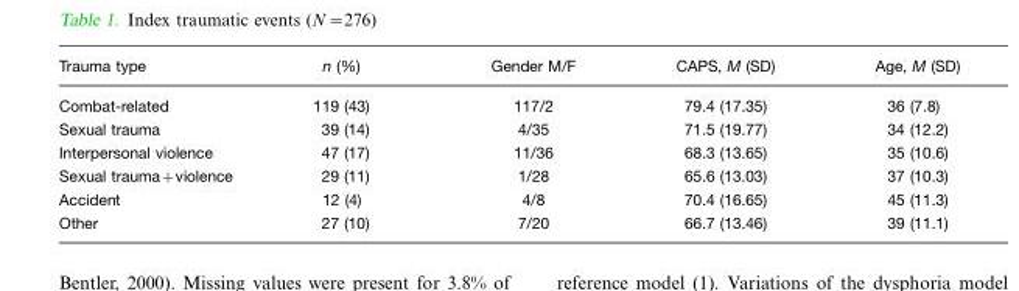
<table><thead><tr><td>Trauma type</td><td>n (%)</td><td>Gender M/F</td><td>CAPS, M (SD)</td><td>Age, M (SD)</td></tr></thead><tbody><tr><td>Combat-related</td><td>119 (43)</td><td>117/2</td><td>79.4 (17.35)</td><td>36 (7.8)</td></tr><tr><td>Sexual trauma</td><td>39 (14)</td><td>4/35</td><td>71.5 (19.77)</td><td>34 (12.2)</td></tr><tr><td>Interpersonal violence</td><td>47 (17)</td><td>11/36</td><td>68.3 (13.65)</td><td>35 (10.6)</td></tr><tr><td>Sexual trauma+violence</td><td>29 (11)</td><td>1/28</td><td>65.6 (13.03)</td><td>37 (10.3)</td></tr><tr><td>Accident</td><td>12 (4)</td><td>4/8</td><td>70.4 (16.65)</td><td>45 (11.3)</td></tr><tr><td>Other</td><td>27 (10)</td><td>7/20</td><td>66.7 (13.46)</td><td>39 (11.1)</td></tr></tbody></table>